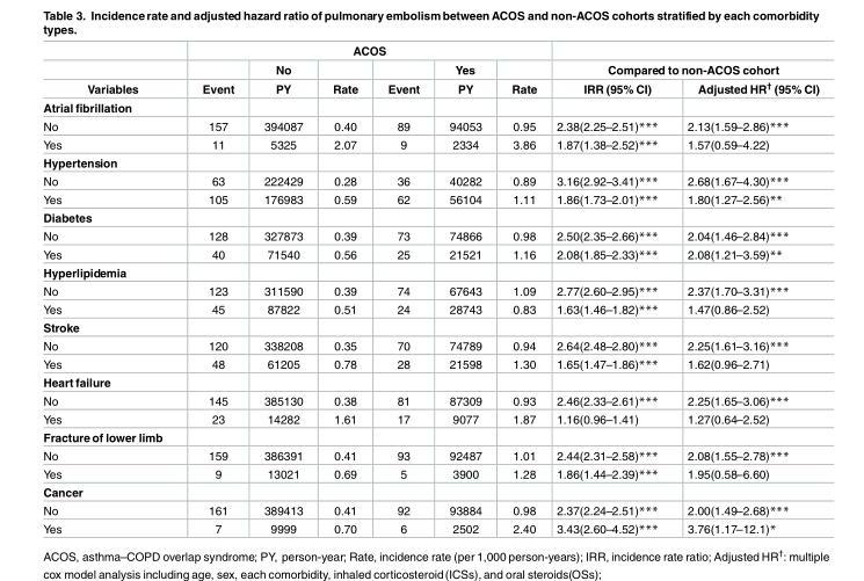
<table><thead><tr><td rowspan="3">Variables</td><td colspan="6">ACOS</td><td></td><td></td></tr><tr><td rowspan="2">Event</td><td rowspan="2">No PY</td><td rowspan="2">Rate</td><td rowspan="2">Event</td><td rowspan="2">Yes PY</td><td rowspan="2">Rate</td><td colspan="2">Compared to non-ACOS cohort</td></tr><tr><td>IRR (95% CI)</td><td>Adjusted HR<sup>†</sup> (95% CI)</td></tr></thead><tbody><tr><td colspan="9">Atrial fibrillation</td></tr><tr><td>No</td><td>157</td><td>394087</td><td>0.40</td><td>89</td><td>94053</td><td>0.95</td><td>2.38(2.25–2.51)***</td><td>2.13(1.59–2.86)***</td></tr><tr><td>Yes</td><td>11</td><td>5325</td><td>2.07</td><td>9</td><td>2334</td><td>3.86</td><td>1.87(1.38–2.52)***</td><td>1.57(0.59–4.22)</td></tr><tr><td colspan="9">Hypertension</td></tr><tr><td>No</td><td>63</td><td>222429</td><td>0.28</td><td>36</td><td>40282</td><td>0.89</td><td>3.16(2.92–3.41)***</td><td>2.68(1.67–4.30)***</td></tr><tr><td>Yes</td><td>105</td><td>176983</td><td>0.59</td><td>62</td><td>56104</td><td>1.11</td><td>1.86(1.73–2.01)***</td><td>1.80(1.27–2.56)**</td></tr><tr><td colspan="9">Diabetes</td></tr><tr><td>No</td><td>128</td><td>327873</td><td>0.39</td><td>73</td><td>74866</td><td>0.98</td><td>2.50(2.35–2.66)***</td><td>2.04(1.46–2.84)***</td></tr><tr><td>Yes</td><td>40</td><td>71540</td><td>0.56</td><td>25</td><td>21521</td><td>1.16</td><td>2.08(1.85–2.33)***</td><td>2.08(1.21–3.59)**</td></tr><tr><td colspan="9">Hyperlipidemia</td></tr><tr><td>No</td><td>123</td><td>311590</td><td>0.39</td><td>74</td><td>67643</td><td>1.09</td><td>2.77(2.60–2.95)***</td><td>2.37(1.70–3.31)***</td></tr><tr><td>Yes</td><td>45</td><td>87822</td><td>0.51</td><td>24</td><td>28743</td><td>0.83</td><td>1.63(1.46–1.82)***</td><td>1.47(0.86–2.52)</td></tr><tr><td colspan="9">Stroke</td></tr><tr><td>No</td><td>120</td><td>338208</td><td>0.35</td><td>70</td><td>74789</td><td>0.94</td><td>2.64(2.48–2.80)***</td><td>2.25(1.61–3.16)***</td></tr><tr><td>Yes</td><td>48</td><td>61205</td><td>0.78</td><td>28</td><td>21598</td><td>1.30</td><td>1.65(1.47–1.86)***</td><td>1.62(0.96–2.71)</td></tr><tr><td colspan="9">Heart failure</td></tr><tr><td>No</td><td>145</td><td>385130</td><td>0.38</td><td>81</td><td>87309</td><td>0.93</td><td>2.46(2.33–2.61)***</td><td>2.25(1.65–3.06)***</td></tr><tr><td>Yes</td><td>23</td><td>14282</td><td>1.61</td><td>17</td><td>9077</td><td>1.87</td><td>1.16(0.96–1.41)</td><td>1.27(0.64–2.52)</td></tr><tr><td colspan="9">Fracture of lower limb</td></tr><tr><td>No</td><td>159</td><td>386391</td><td>0.41</td><td>93</td><td>92487</td><td>1.01</td><td>2.44(2.31–2.58)***</td><td>2.08(1.55–2.78)***</td></tr><tr><td>Yes</td><td>9</td><td>13021</td><td>0.69</td><td>5</td><td>3900</td><td>1.28</td><td>1.86(1.44–2.39)***</td><td>1.95(0.58–6.60)</td></tr><tr><td colspan="9">Cancer</td></tr><tr><td>No</td><td>161</td><td>389413</td><td>0.41</td><td>92</td><td>93884</td><td>0.98</td><td>2.37(2.24–2.51)***</td><td>2.00(1.49–2.68)***</td></tr><tr><td>Yes</td><td>7</td><td>9999</td><td>0.70</td><td>6</td><td>2502</td><td>2.40</td><td>3.43(2.60–4.52)***</td><td>3.76(1.17–12.1)*</td></tr></tbody></table>